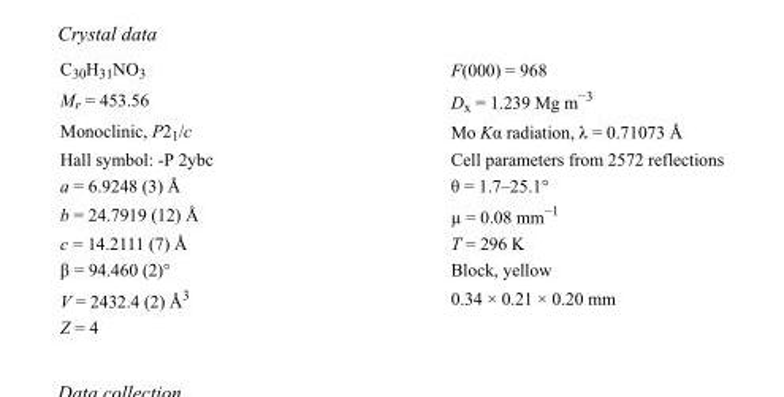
<table><tbody><tr><td>C<sub>30</sub>H<sub>31</sub>NO<sub>3</sub></td><td>F(000) = 968</td></tr><tr><td>M<sub>r</sub> = 453.56</td><td>D<sub>x</sub> = 1.239 Mg m<sup>−3</sup></td></tr><tr><td>Monoclinic, P2<sub>1</sub>/c</td><td>Mo Kα radiation, λ = 0.71073 Å</td></tr><tr><td>Hall symbol: -P 2ybc</td><td>Cell parameters from 2572 reflections</td></tr><tr><td>a = 6.9248 (3) Å</td><td>θ = 1.7–25.1°</td></tr><tr><td>b = 24.7919 (12) Å</td><td>µ = 0.08 mm<sup>−1</sup></td></tr><tr><td>c = 14.2111 (7) Å</td><td>T = 296 K</td></tr><tr><td>β = 94.460 (2)°</td><td>Block, yellow</td></tr><tr><td>V = 2432.4 (2) Å<sup>3</sup></td><td>0.34 × 0.21 × 0.20 mm</td></tr><tr><td>Z = 4</td><td></td></tr></tbody></table>